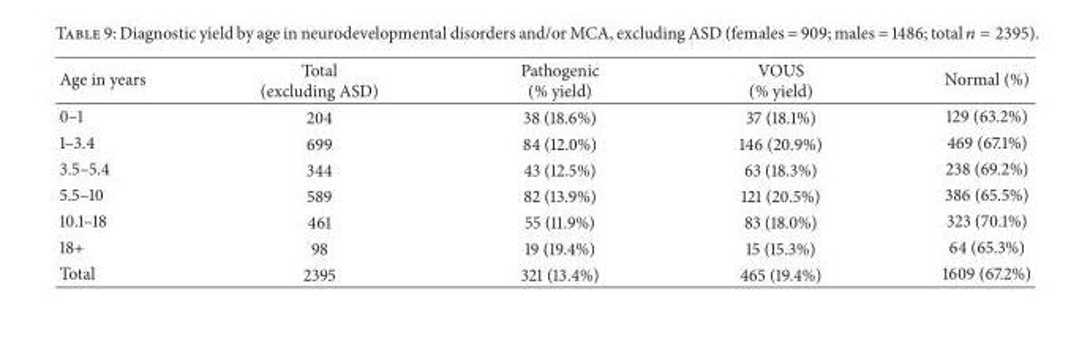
<table><thead><tr><td>Age in years</td><td>Total (excluding ASD)</td><td>Pathogenic (% yield)</td><td>VOUS (% yield)</td><td>Normal (%)</td></tr></thead><tbody><tr><td>0–1</td><td>204</td><td>38 (18.6%)</td><td>37 (18.1%)</td><td>129 (63.2%)</td></tr><tr><td>1–3.4</td><td>699</td><td>84 (12.0%)</td><td>146 (20.9%)</td><td>469 (67.1%)</td></tr><tr><td>3.5–5.4</td><td>344</td><td>43 (12.5%)</td><td>63 (18.3%)</td><td>238 (69.2%)</td></tr><tr><td>5.5–10</td><td>589</td><td>82 (13.9%)</td><td>121 (20.5%)</td><td>386 (65.5%)</td></tr><tr><td>10.1–18</td><td>461</td><td>55 (11.9%)</td><td>83 (18.0%)</td><td>323 (70.1%)</td></tr><tr><td>18+</td><td>98</td><td>19 (19.4%)</td><td>15 (15.3%)</td><td>64 (65.3%)</td></tr><tr><td>Total</td><td>2395</td><td>321 (13.4%)</td><td>465 (19.4%)</td><td>1609 (67.2%)</td></tr></tbody></table>